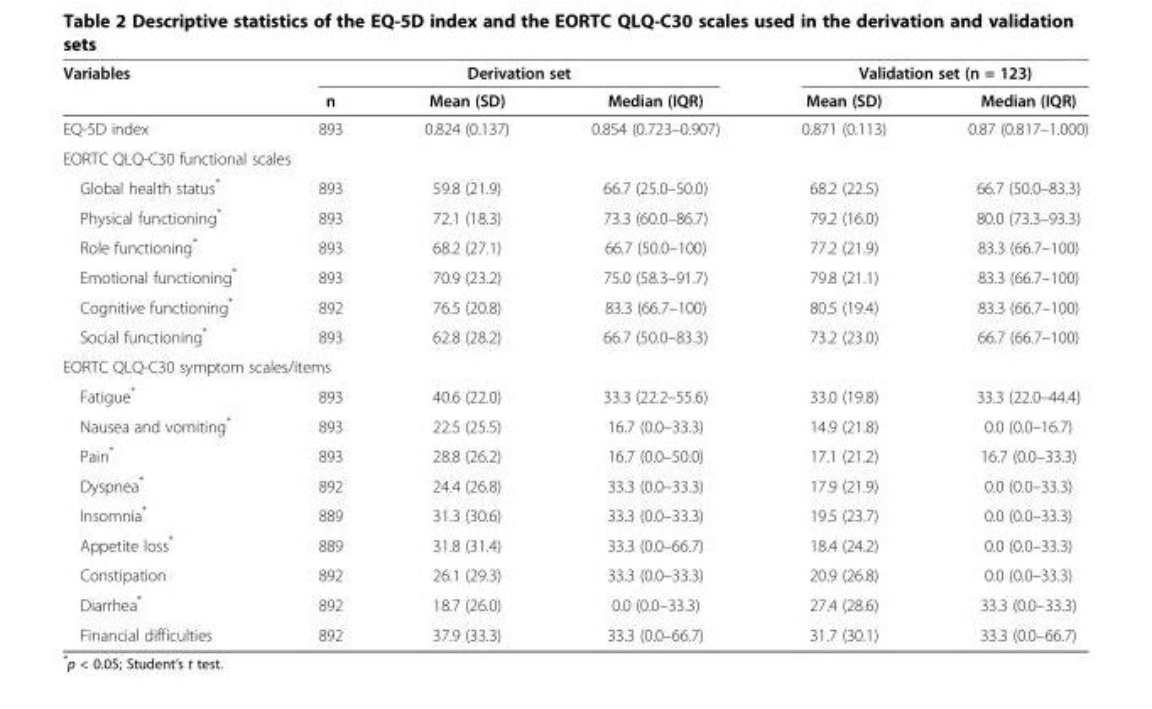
<table><thead><tr><td rowspan="2">Variables</td><td colspan="3">Derivation set</td><td colspan="2">Validation set (n = 123)</td></tr><tr><td>n</td><td>Mean (SD)</td><td>Median (IQR)</td><td>Mean (SD)</td><td>Median (IQR)</td></tr></thead><tbody><tr><td>EQ-5D index</td><td>893</td><td>0.824 (0.137)</td><td>0.854 (0.723–0.907)</td><td>0.871 (0.113)</td><td>0.87 (0.817–1.000)</td></tr><tr><td colspan="6">EORTC QLQ-C30 functional scales</td></tr><tr><td>Global health status*</td><td>893</td><td>59.8 (21.9)</td><td>66.7 (25.0–50.0)</td><td>68.2 (22.5)</td><td>66.7 (50.0–83.3)</td></tr><tr><td>Physical functioning*</td><td>893</td><td>72.1 (18.3)</td><td>73.3 (60.0–86.7)</td><td>79.2 (16.0)</td><td>80.0 (73.3–93.3)</td></tr><tr><td>Role functioning*</td><td>893</td><td>68.2 (27.1)</td><td>66.7 (50.0–100)</td><td>77.2 (21.9)</td><td>83.3 (66.7–100)</td></tr><tr><td>Emotional functioning*</td><td>893</td><td>70.9 (23.2)</td><td>75.0 (58.3–91.7)</td><td>79.8 (21.1)</td><td>83.3 (66.7–100)</td></tr><tr><td>Cognitive functioning*</td><td>892</td><td>76.5 (20.8)</td><td>83.3 (66.7–100)</td><td>80.5 (19.4)</td><td>83.3 (66.7–100)</td></tr><tr><td>Social functioning*</td><td>893</td><td>62.8 (28.2)</td><td>66.7 (50.0–83.3)</td><td>73.2 (23.0)</td><td>66.7 (66.7–100)</td></tr><tr><td colspan="6">EORTC QLQ-C30 symptom scales/items</td></tr><tr><td>Fatigue*</td><td>893</td><td>40.6 (22.0)</td><td>33.3 (22.2–55.6)</td><td>33.0 (19.8)</td><td>33.3 (22.0–44.4)</td></tr><tr><td>Nausea and vomiting*</td><td>893</td><td>22.5 (25.5)</td><td>16.7 (0.0–33.3)</td><td>14.9 (21.8)</td><td>0.0 (0.0–16.7)</td></tr><tr><td>Pain*</td><td>893</td><td>28.8 (26.2)</td><td>16.7 (0.0–50.0)</td><td>17.1 (21.2)</td><td>16.7 (0.0–33.3)</td></tr><tr><td>Dyspnea*</td><td>892</td><td>24.4 (26.8)</td><td>33.3 (0.0–33.3)</td><td>17.9 (21.9)</td><td>0.0 (0.0–33.3)</td></tr><tr><td>Insomnia*</td><td>889</td><td>31.3 (30.6)</td><td>33.3 (0.0–33.3)</td><td>19.5 (23.7)</td><td>0.0 (0.0–33.3)</td></tr><tr><td>Appetite loss*</td><td>889</td><td>31.8 (31.4)</td><td>33.3 (0.0–66.7)</td><td>18.4 (24.2)</td><td>0.0 (0.0–33.3)</td></tr><tr><td>Constipation</td><td>892</td><td>26.1 (29.3)</td><td>33.3 (0.0–33.3)</td><td>20.9 (26.8)</td><td>0.0 (0.0–33.3)</td></tr><tr><td>Diarrhea*</td><td>892</td><td>18.7 (26.0)</td><td>0.0 (0.0–33.3)</td><td>27.4 (28.6)</td><td>33.3 (0.0–33.3)</td></tr><tr><td>Financial difficulties</td><td>892</td><td>37.9 (33.3)</td><td>33.3 (0.0–66.7)</td><td>31.7 (30.1)</td><td>33.3 (0.0–66.7)</td></tr></tbody></table>